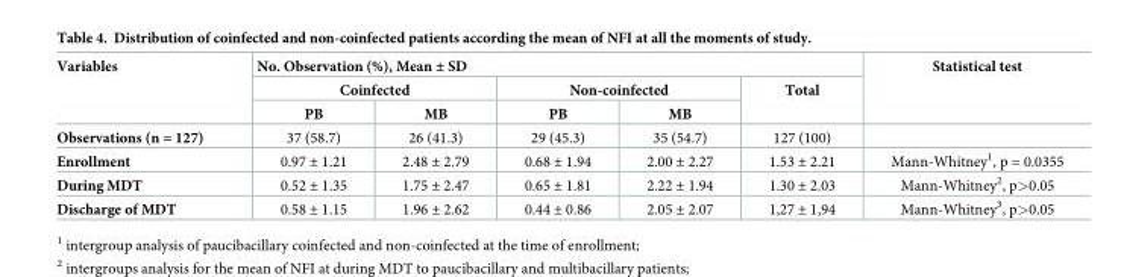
<table><thead><tr><td rowspan="3">Variables</td><td colspan="5">No. Observation (%), Mean ± SD</td><td rowspan="3">Statistical test</td></tr><tr><td colspan="2">Coinfected</td><td colspan="2">Non-coinfected</td><td rowspan="2">Total</td></tr><tr><td>PB</td><td>MB</td><td>PB</td><td>MB</td></tr></thead><tbody><tr><td>Observations (n = 127)</td><td>37 (58.7)</td><td>26 (41.3)</td><td>29 (45.3)</td><td>35 (54.7)</td><td>127 (100)</td><td></td></tr><tr><td>Enrollment</td><td>0.97 ± 1.21</td><td>2.48 ± 2.79</td><td>0.68 ± 1.94</td><td>2.00 ± 2.27</td><td>1.53 ± 2.21</td><td>Mann-Whitney<sup>1</sup>, p = 0.0355</td></tr><tr><td>During MDT</td><td>0.52 ± 1.35</td><td>1.75 ± 2.47</td><td>0.65 ± 1.81</td><td>2.22 ± 1.94</td><td>1.30 ± 2.03</td><td>Mann-Whitney<sup>2</sup>, p&gt;0.05</td></tr><tr><td>Discharge of MDT</td><td>0.58 ± 1.15</td><td>1.96 ± 2.62</td><td>0.44 ± 0.86</td><td>2.05 ± 2.07</td><td>1,27 ± 1,94</td><td>Mann-Whitney<sup>3</sup>, p&gt;0.05</td></tr></tbody></table>